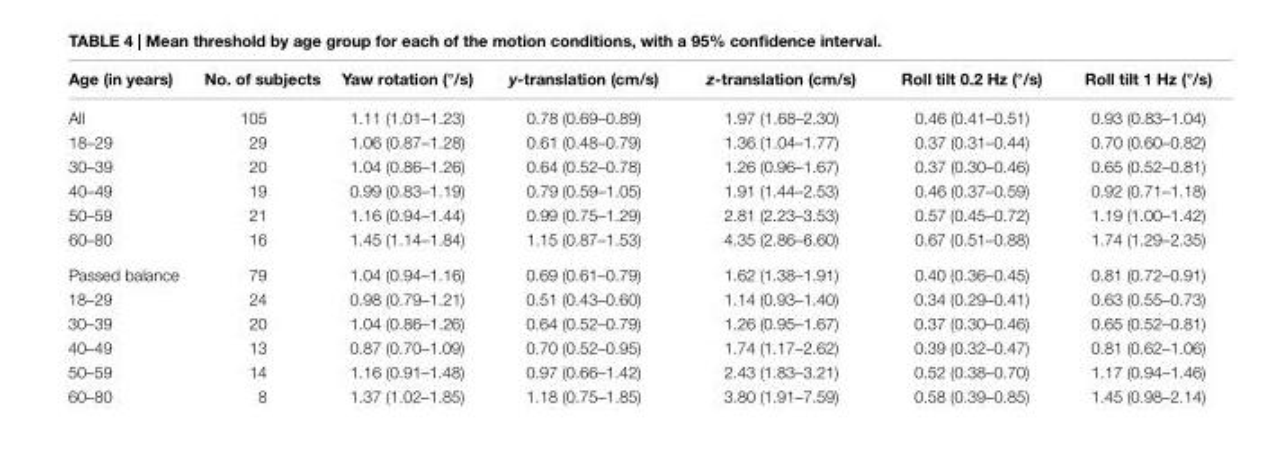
<table><thead><tr><td>age (in years)</td><td>no. of subjects</td><td>Yaw rotation (°/s)</td><td>y-translation (cm/s)</td><td>z-translation (cm/s)</td><td>roll tilt 0.2 hz (°/s)</td><td>roll tilt 1 hz (°/s)</td></tr></thead><tbody><tr><td>All</td><td>105</td><td>1.11 (1.01–1.23)</td><td>0.78 (0.69–0.89)</td><td>1.97 (1.68–2.30)</td><td>0.46 (0.41–0.51)</td><td>0.93 (0.83–1.04)</td></tr><tr><td>18–29</td><td>29</td><td>1.06 (0.87–1.28)</td><td>0.61 (0.48–0.79)</td><td>1.36 (1.04–1.77)</td><td>0.37 (0.31–0.44)</td><td>0.70 (0.60–0.82)</td></tr><tr><td>30–39</td><td>20</td><td>1.04 (0.86–1.26)</td><td>0.64 (0.52–0.78)</td><td>1.26 (0.96–1.67)</td><td>0.37 (0.30–0.46)</td><td>0.65 (0.52–0.81)</td></tr><tr><td>40–49</td><td>19</td><td>0.99 (0.83–1.19)</td><td>0.79 (0.59–1.05)</td><td>1.91 (1.44–2.53)</td><td>0.46 (0.37–0.59)</td><td>0.92 (0.71–1.18)</td></tr><tr><td>50–59</td><td>21</td><td>1.16 (0.94–1.44)</td><td>0.99 (0.75–1.29)</td><td>2.81 (2.23–3.53)</td><td>0.57 (0.45–0.72)</td><td>1.19 (1.00–1.42)</td></tr><tr><td>60–80</td><td>16</td><td>1.45 (1.14–1.84)</td><td>1.15 (0.87–1.53)</td><td>4.35 (2.86–6.60)</td><td>0.67 (0.51–0.88)</td><td>1.74 (1.29–2.35)</td></tr><tr><td>Passed balance</td><td>79</td><td>1.04 (0.94–1.16)</td><td>0.69 (0.61–0.79)</td><td>1.62 (1.38–1.91)</td><td>0.40 (0.36–0.45)</td><td>0.81 (0.72–0.91)</td></tr><tr><td>18–29</td><td>24</td><td>0.98 (0.79–1.21)</td><td>0.51 (0.43–0.60)</td><td>1.14 (0.93–1.40)</td><td>0.34 (0.29–0.41)</td><td>0.63 (0.55–0.73)</td></tr><tr><td>30–39</td><td>20</td><td>1.04 (0.86–1.26)</td><td>0.64 (0.52–0.79)</td><td>1.26 (0.95–1.67)</td><td>0.37 (0.30–0.46)</td><td>0.65 (0.52–0.81)</td></tr><tr><td>40–49</td><td>13</td><td>0.87 (0.70–1.09)</td><td>0.70 (0.52–0.95)</td><td>1.74 (1.17–2.62)</td><td>0.39 (0.32–0.47)</td><td>0.81 (0.62–1.06)</td></tr><tr><td>50–59</td><td>14</td><td>1.16 (0.91–1.48)</td><td>0.97 (0.66–1.42)</td><td>2.43 (1.83–3.21)</td><td>0.52 (0.38–0.70)</td><td>1.17 (0.94–1.46)</td></tr><tr><td>60–80</td><td>8</td><td>1.37 (1.02–1.85)</td><td>1.18 (0.75–1.85)</td><td>3.80 (1.91–7.59)</td><td>0.58 (0.39–0.85)</td><td>1.45 (0.98–2.14)</td></tr></tbody></table>